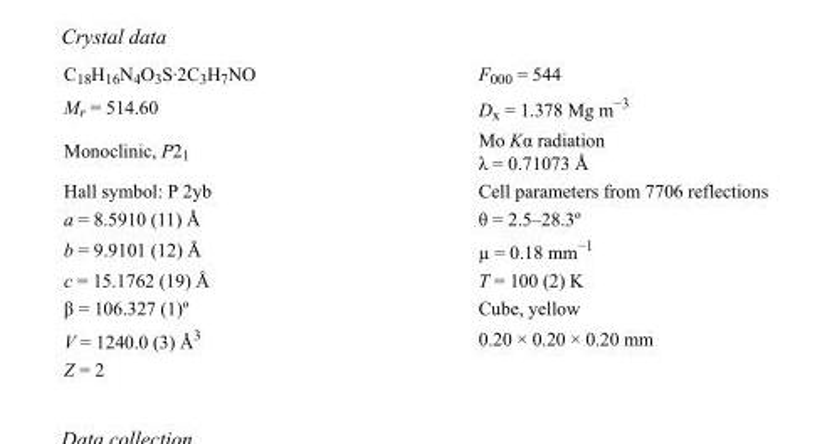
<table><tbody><tr><td>C<sub>18</sub>H<sub>16</sub>N<sub>4</sub>O<sub>3</sub>S·2C<sub>3</sub>H<sub>7</sub>NO</td><td>F<sub>000</sub> = 544</td></tr><tr><td>M<sub>r</sub> = 514.60</td><td>D<sub>x</sub> = 1.378 Mg m<sup>−3</sup></td></tr><tr><td>Monoclinic, P2<sub>1</sub></td><td>Mo Kα radiation λ = 0.71073 Å</td></tr><tr><td>Hall symbol: P 2yb</td><td>Cell parameters from 7706 reflections</td></tr><tr><td>a = 8.5910 (11) Å</td><td>θ = 2.5–28.3º</td></tr><tr><td>b = 9.9101 (12) Å</td><td>µ = 0.18 mm<sup>−1</sup></td></tr><tr><td>c = 15.1762 (19) Å</td><td>T = 100 (2) K</td></tr><tr><td>β = 106.327 (1)º</td><td>Cube, yellow</td></tr><tr><td>V = 1240.0 (3) Å<sup>3</sup></td><td>0.20 × 0.20 × 0.20 mm</td></tr><tr><td>Z = 2</td><td></td></tr></tbody></table>